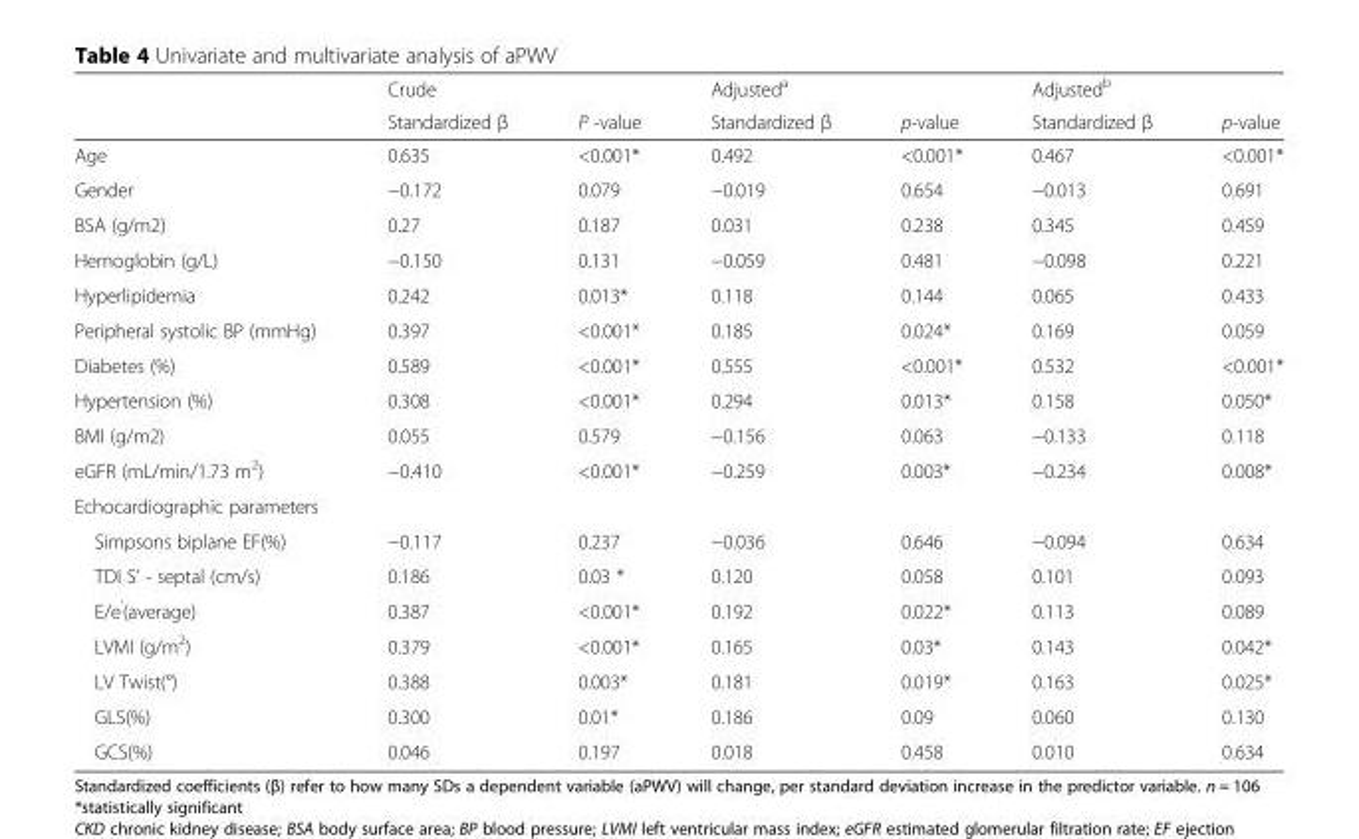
<table><thead><tr><td rowspan="2"></td><td rowspan="2">Crude Standardized β</td><td rowspan="2">P -value</td><td rowspan="2">Adjusted<sup>a</sup> Standardized β</td><td rowspan="2">p-value</td><td rowspan="2">Adjusted<sup>b</sup> Standardized β</td><td rowspan="2">p-value</td></tr><tr></tr></thead><tbody><tr><td>Age</td><td>0.635</td><td>&lt;0.001*</td><td>0.492</td><td>&lt;0.001*</td><td>0.467</td><td>&lt;0.001*</td></tr><tr><td>Gender</td><td>−0.172</td><td>0.079</td><td>−0.019</td><td>0.654</td><td>−0.013</td><td>0.691</td></tr><tr><td>BSA (g/m2)</td><td>0.27</td><td>0.187</td><td>0.031</td><td>0.238</td><td>0.345</td><td>0.459</td></tr><tr><td>Hemoglobin (g/L)</td><td>−0.150</td><td>0.131</td><td>−0.059</td><td>0.481</td><td>−0.098</td><td>0.221</td></tr><tr><td>Hyperlipidemia</td><td>0.242</td><td>0.013*</td><td>0.118</td><td>0.144</td><td>0.065</td><td>0.433</td></tr><tr><td>Peripheral systolic BP (mmHg)</td><td>0.397</td><td>&lt;0.001*</td><td>0.185</td><td>0.024*</td><td>0.169</td><td>0.059</td></tr><tr><td>Diabetes (%)</td><td>0.589</td><td>&lt;0.001*</td><td>0.555</td><td>&lt;0.001*</td><td>0.532</td><td>&lt;0.001*</td></tr><tr><td>Hypertension (%)</td><td>0.308</td><td>&lt;0.001*</td><td>0.294</td><td>0.013*</td><td>0.158</td><td>0.050*</td></tr><tr><td>BMI (g/m2)</td><td>0.055</td><td>0.579</td><td>−0.156</td><td>0.063</td><td>−0.133</td><td>0.118</td></tr><tr><td>eGFR (mL/min/1.73 m<sup>2</sup>)</td><td>−0.410</td><td>&lt;0.001*</td><td>−0.259</td><td>0.003*</td><td>−0.234</td><td>0.008*</td></tr><tr><td colspan="7">Echocardiographic parameters</td></tr><tr><td>Simpsons biplane EF(%)</td><td>−0.117</td><td>0.237</td><td>−0.036</td><td>0.646</td><td>−0.094</td><td>0.634</td></tr><tr><td>TDI S’ - septal (cm/s)</td><td>0.186</td><td>0.03 *</td><td>0.120</td><td>0.058</td><td>0.101</td><td>0.093</td></tr><tr><td>E/e<sup>’</sup>(average)</td><td>0.387</td><td>&lt;0.001*</td><td>0.192</td><td>0.022*</td><td>0.113</td><td>0.089</td></tr><tr><td>LVMI (g/m<sup>2</sup>)</td><td>0.379</td><td>&lt;0.001*</td><td>0.165</td><td>0.03*</td><td>0.143</td><td>0.042*</td></tr><tr><td>LV Twist(°)</td><td>0.388</td><td>0.003*</td><td>0.181</td><td>0.019*</td><td>0.163</td><td>0.025*</td></tr><tr><td>GLS(%)</td><td>0.300</td><td>0.01*</td><td>0.186</td><td>0.09</td><td>0.060</td><td>0.130</td></tr><tr><td>GCS(%)</td><td>0.046</td><td>0.197</td><td>0.018</td><td>0.458</td><td>0.010</td><td>0.634</td></tr></tbody></table>